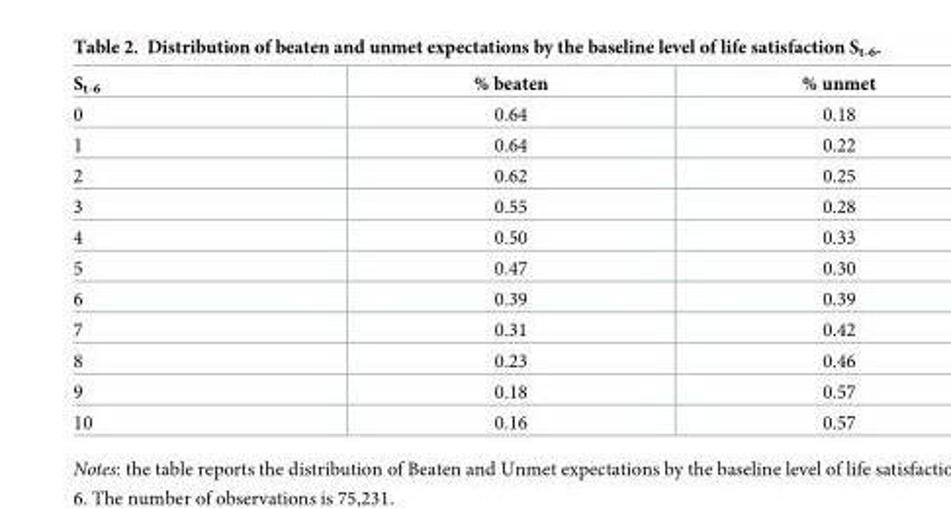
<table><thead><tr><td>S<sub>t-6</sub></td><td>% beaten</td><td>% unmet</td></tr></thead><tbody><tr><td>0</td><td>0.64</td><td>0.18</td></tr><tr><td>1</td><td>0.64</td><td>0.22</td></tr><tr><td>2</td><td>0.62</td><td>0.25</td></tr><tr><td>3</td><td>0.55</td><td>0.28</td></tr><tr><td>4</td><td>0.50</td><td>0.33</td></tr><tr><td>5</td><td>0.47</td><td>0.30</td></tr><tr><td>6</td><td>0.39</td><td>0.39</td></tr><tr><td>7</td><td>0.31</td><td>0.42</td></tr><tr><td>8</td><td>0.23</td><td>0.46</td></tr><tr><td>9</td><td>0.18</td><td>0.57</td></tr><tr><td>10</td><td>0.16</td><td>0.57</td></tr></tbody></table>